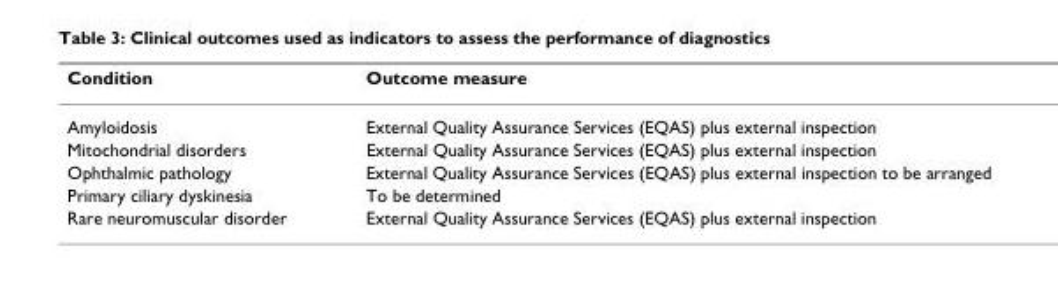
<table><thead><tr><td>Condition</td><td>Outcome measure</td></tr></thead><tbody><tr><td>Amyloidosis</td><td>External Quality Assurance Services (EQAS) plus external inspection</td></tr><tr><td>Mitochondrial disorders</td><td>External Quality Assurance Services (EQAS) plus external inspection</td></tr><tr><td>Ophthalmic pathology</td><td>External Quality Assurance Services (EQAS) plus external inspection to be arranged</td></tr><tr><td>Primary ciliary dyskinesia</td><td>To be determined</td></tr><tr><td>Rare neuromuscular disorder</td><td>External Quality Assurance Services (EQAS) plus external inspection</td></tr></tbody></table>